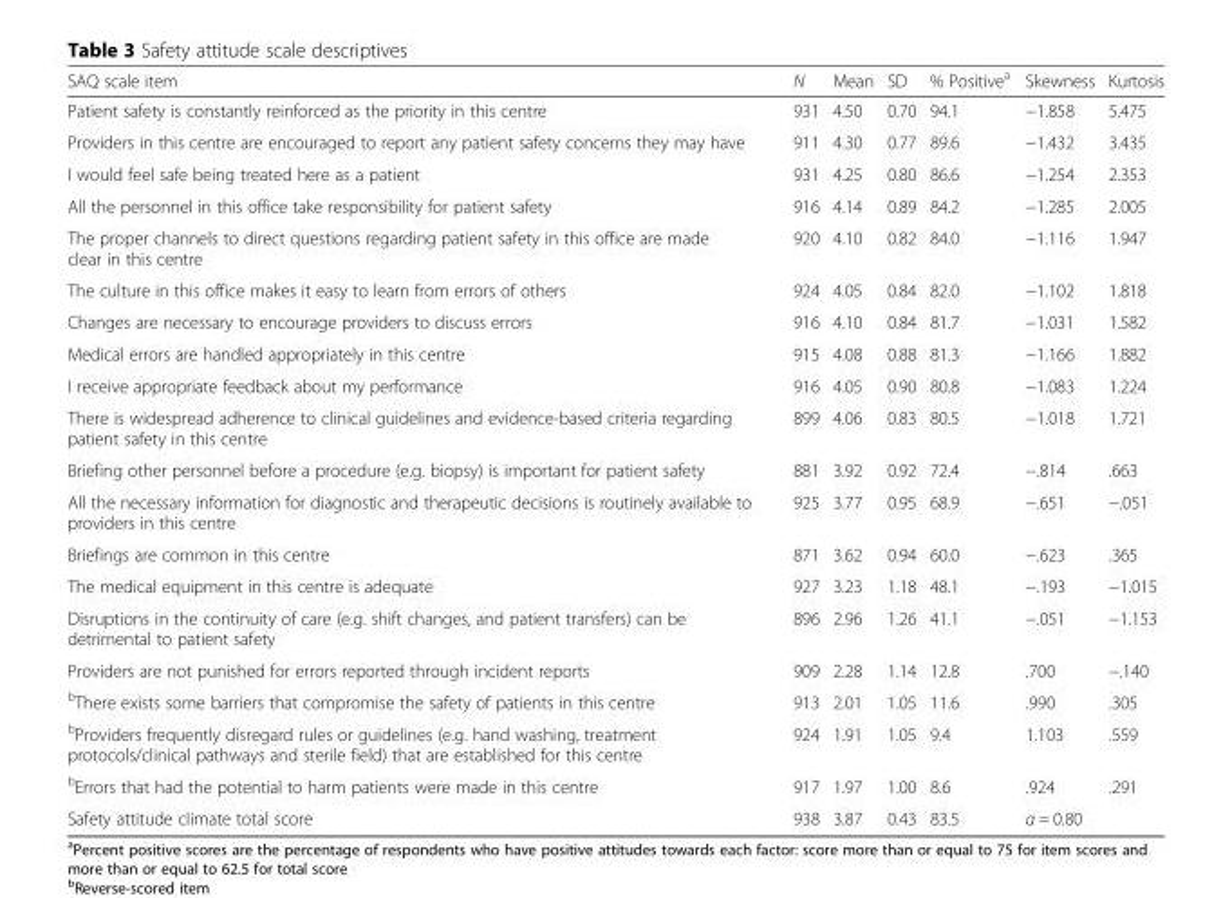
<table><thead><tr><td>SAQ scale item</td><td>N</td><td>Mean</td><td>SD</td><td>% Positive<sup>a</sup></td><td>Skewness</td><td>Kurtosis</td></tr></thead><tbody><tr><td>Patient safety is constantly reinforced as the priority in this centre</td><td>931</td><td>4.50</td><td>0.70</td><td>94.1</td><td>−1.858</td><td>5.475</td></tr><tr><td>Providers in this centre are encouraged to report any patient safety concerns they may have</td><td>911</td><td>4.30</td><td>0.77</td><td>89.6</td><td>−1.432</td><td>3.435</td></tr><tr><td>I would feel safe being treated here as a patient</td><td>931</td><td>4.25</td><td>0.80</td><td>86.6</td><td>−1.254</td><td>2.353</td></tr><tr><td>All the personnel in this office take responsibility for patient safety</td><td>916</td><td>4.14</td><td>0.89</td><td>84.2</td><td>−1.285</td><td>2.005</td></tr><tr><td>The proper channels to direct questions regarding patient safety in this office are made clear in this centre</td><td>920</td><td>4.10</td><td>0.82</td><td>84.0</td><td>−1.116</td><td>1.947</td></tr><tr><td>The culture in this office makes it easy to learn from errors of others</td><td>924</td><td>4.05</td><td>0.84</td><td>82.0</td><td>−1.102</td><td>1.818</td></tr><tr><td>Changes are necessary to encourage providers to discuss errors</td><td>916</td><td>4.10</td><td>0.84</td><td>81.7</td><td>−1.031</td><td>1.582</td></tr><tr><td>Medical errors are handled appropriately in this centre</td><td>915</td><td>4.08</td><td>0.88</td><td>81.3</td><td>−1.166</td><td>1.882</td></tr><tr><td>I receive appropriate feedback about my performance</td><td>916</td><td>4.05</td><td>0.90</td><td>80.8</td><td>−1.083</td><td>1.224</td></tr><tr><td>There is widespread adherence to clinical guidelines and evidence-based criteria regarding patient safety in this centre</td><td>899</td><td>4.06</td><td>0.83</td><td>80.5</td><td>−1.018</td><td>1.721</td></tr><tr><td>Briefing other personnel before a procedure (e.g. biopsy) is important for patient safety</td><td>881</td><td>3.92</td><td>0.92</td><td>72.4</td><td>−.814</td><td>.663</td></tr><tr><td>All the necessary information for diagnostic and therapeutic decisions is routinely available to providers in this centre</td><td>925</td><td>3.77</td><td>0.95</td><td>68.9</td><td>−.651</td><td>−.051</td></tr><tr><td>Briefings are common in this centre</td><td>871</td><td>3.62</td><td>0.94</td><td>60.0</td><td>−.623</td><td>.365</td></tr><tr><td>The medical equipment in this centre is adequate</td><td>927</td><td>3.23</td><td>1.18</td><td>48.1</td><td>−.193</td><td>−1.015</td></tr><tr><td>Disruptions in the continuity of care (e.g. shift changes, and patient transfers) can be detrimental to patient safety</td><td>896</td><td>2.96</td><td>1.26</td><td>41.1</td><td>−.051</td><td>−1.153</td></tr><tr><td>Providers are not punished for errors reported through incident reports</td><td>909</td><td>2.28</td><td>1.14</td><td>12.8</td><td>.700</td><td>−.140</td></tr><tr><td><sup>b</sup>There exists some barriers that compromise the safety of patients in this centre</td><td>913</td><td>2.01</td><td>1.05</td><td>11.6</td><td>.990</td><td>.305</td></tr><tr><td><sup>b</sup>Providers frequently disregard rules or guidelines (e.g. hand washing, treatment protocols/clinical pathways and sterile field) that are established for this centre</td><td>924</td><td>1.91</td><td>1.05</td><td>9.4</td><td>1.103</td><td>.559</td></tr><tr><td><sup>b</sup>Errors that had the potential to harm patients were made in this centre</td><td>917</td><td>1.97</td><td>1.00</td><td>8.6</td><td>.924</td><td>.291</td></tr><tr><td>Safety attitude climate total score</td><td>938</td><td>3.87</td><td>0.43</td><td>83.5</td><td colspan="2">α = 0.80</td></tr></tbody></table>